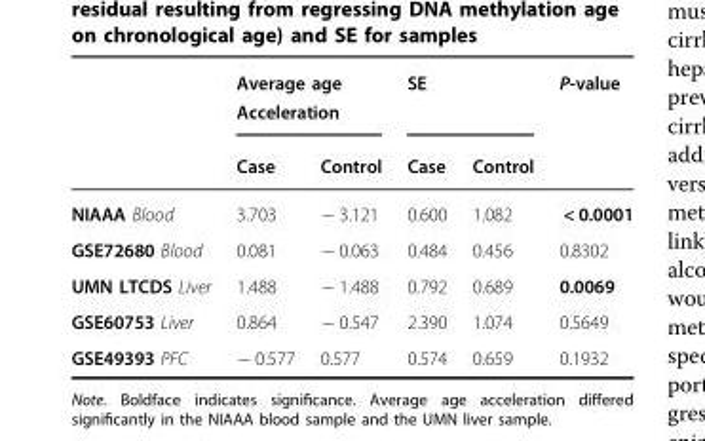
<table><thead><tr><td rowspan="2"></td><td colspan="2">Average age Acceleration</td><td colspan="2">SE</td><td rowspan="2">P-value</td></tr><tr><td>Case</td><td>Control</td><td>Case</td><td>Control</td></tr></thead><tbody><tr><td>NIAAA Blood</td><td>3.703</td><td>− 3.121</td><td>0.600</td><td>1.082</td><td>&lt; 0.0001</td></tr><tr><td>GSE72680 Blood</td><td>0.081</td><td>− 0.063</td><td>0.484</td><td>0.456</td><td>0.8302</td></tr><tr><td>UMN LTCDS Liver</td><td>1.488</td><td>− 1.488</td><td>0.792</td><td>0.689</td><td>0.0069</td></tr><tr><td>GSE60753 Liver</td><td>0.864</td><td>− 0.547</td><td>2.390</td><td>1.074</td><td>0.5649</td></tr><tr><td>GSE49393 PFC</td><td>− 0.577</td><td>0.577</td><td>0.574</td><td>0.659</td><td>0.1932</td></tr></tbody></table>